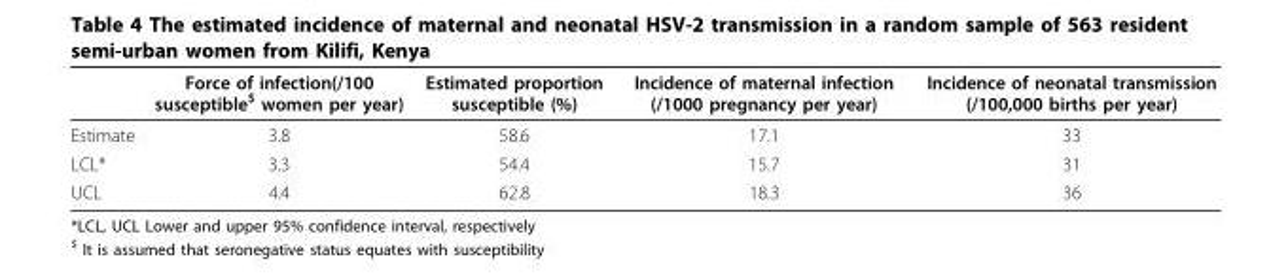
<table><thead><tr><td></td><td>Force of infection(/100 susceptible<sup>$</sup> women per year)</td><td>Estimated proportion susceptible (%)</td><td>Incidence of maternal infection (/1000 pregnancy per year)</td><td>Incidence of neonatal transmission (/100,000 births per year)</td></tr></thead><tbody><tr><td>Estimate</td><td>3.8</td><td>58.6</td><td>17.1</td><td>33</td></tr><tr><td>LCL*</td><td>3.3</td><td>54.4</td><td>15.7</td><td>31</td></tr><tr><td>UCL</td><td>4.4</td><td>62.8</td><td>18.3</td><td>36</td></tr></tbody></table>